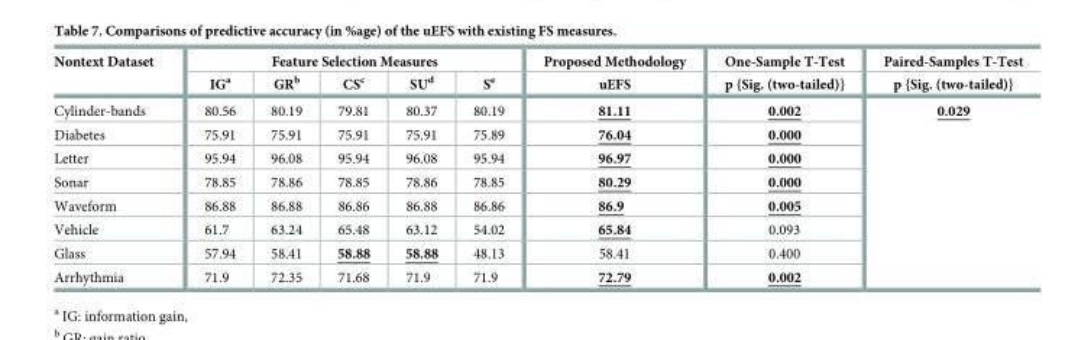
<table><thead><tr><td rowspan="2">Nontext Dataset</td><td colspan="5">Feature Selection Measures</td><td rowspan="2">Proposed Methodology uEFS</td><td rowspan="2">One-Sample T-Test p {Sig. (two-tailed)}</td><td rowspan="2">Paired-Samples T-Test p {Sig. (two-tailed)}</td></tr><tr><td>IG<sup>a</sup></td><td>GR<sup>b</sup></td><td>CS<sup>c</sup></td><td>SU<sup>d</sup></td><td>S<sup>e</sup></td></tr></thead><tbody><tr><td>Cylinder-bands</td><td>80.56</td><td>80.19</td><td>79.81</td><td>80.37</td><td>80.19</td><td>81.11</td><td>0.002</td><td rowspan="8">0.029</td></tr><tr><td>Diabetes</td><td>75.91</td><td>75.91</td><td>75.91</td><td>75.91</td><td>75.89</td><td>76.04</td><td>0.000</td></tr><tr><td>Letter</td><td>95.94</td><td>96.08</td><td>95.94</td><td>96.08</td><td>95.94</td><td>96.97</td><td>0.000</td></tr><tr><td>Sonar</td><td>78.85</td><td>78.86</td><td>78.85</td><td>78.86</td><td>78.85</td><td>80.29</td><td>0.000</td></tr><tr><td>Waveform</td><td>86.88</td><td>86.88</td><td>86.86</td><td>86.88</td><td>86.86</td><td>86.9</td><td>0.005</td></tr><tr><td>Vehicle</td><td>61.7</td><td>63.24</td><td>65.48</td><td>63.12</td><td>54.02</td><td>65.84</td><td>0.093</td></tr><tr><td>Glass</td><td>57.94</td><td>58.41</td><td>58.88</td><td>58.88</td><td>48.13</td><td>58.41</td><td>0.400</td></tr><tr><td>Arrhythmia</td><td>71.9</td><td>72.35</td><td>71.68</td><td>71.9</td><td>71.9</td><td>72.79</td><td>0.002</td></tr></tbody></table>